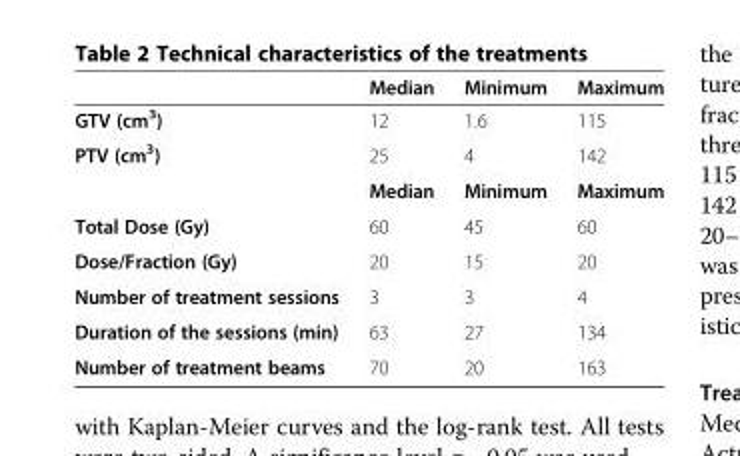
<table><thead><tr><td></td><td>Median</td><td>Minimum</td><td>Maximum</td></tr></thead><tbody><tr><td>GTV (cm<sup>3</sup>)</td><td>12</td><td>1.6</td><td>115</td></tr><tr><td rowspan="2">PTV (cm<sup>3</sup>)</td><td>25</td><td>4</td><td>142</td></tr><tr><td>Median</td><td>Minimum</td><td>Maximum</td></tr><tr><td>Total Dose (Gy)</td><td>60</td><td>45</td><td>60</td></tr><tr><td>Dose/Fraction (Gy)</td><td>20</td><td>15</td><td>20</td></tr><tr><td>Number of treatment sessions</td><td>3</td><td>3</td><td>4</td></tr><tr><td>Duration of the sessions (min)</td><td>63</td><td>27</td><td>134</td></tr><tr><td>Number of treatment beams</td><td>70</td><td>20</td><td>163</td></tr></tbody></table>